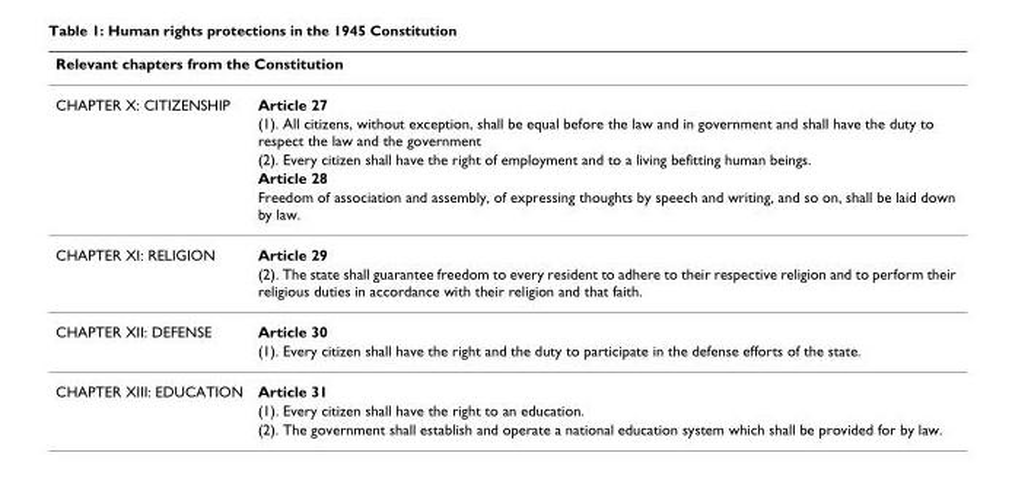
<table><thead><tr><td colspan="2">Relevant chapters from the Constitution</td></tr><tr><td>CHAPTER X: CITIZENSHIP</td><td>Article 27</td></tr></thead><tbody><tr><td></td><td>(1). All citizens, without exception, shall be equal before the law and in government and shall have the duty to respect the law and the government</td></tr><tr><td></td><td>(2). Every citizen shall have the right of employment and to a living befitting human beings.</td></tr><tr><td></td><td>Article 28</td></tr><tr><td></td><td>Freedom of association and assembly, of expressing thoughts by speech and writing, and so on, shall be laid down by law.</td></tr><tr><td rowspan="2">CHAPTER XI: RELIGION</td><td>Article 29</td></tr><tr><td>(2). The state shall guarantee freedom to every resident to adhere to their respective religion and to perform their religious duties in accordance with their religion and that faith.</td></tr><tr><td rowspan="2">CHAPTER XII: DEFENSE</td><td>Article 30</td></tr><tr><td>(1). Every citizen shall have the right and the duty to participate in the defense efforts of the state.</td></tr><tr><td rowspan="3">CHAPTER XIII: EDUCATION</td><td>Article 31</td></tr><tr><td>(1). Every citizen shall have the right to an education.</td></tr><tr><td>(2). The government shall establish and operate a national education system which shall be provided for by law.</td></tr></tbody></table>